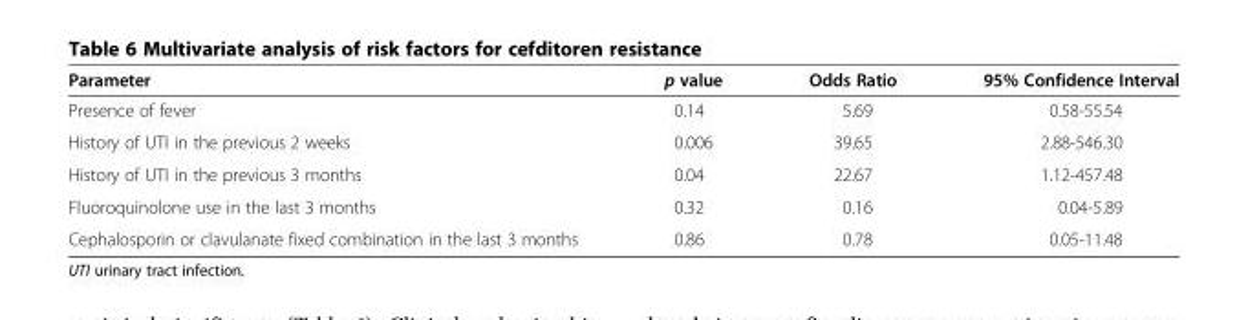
<table><thead><tr><td>Parameter</td><td>p value</td><td>Odds Ratio</td><td>95% Confidence Interval</td></tr></thead><tbody><tr><td>Presence of fever</td><td>0.14</td><td>5.69</td><td>0.58-55.54</td></tr><tr><td>History of UTI in the previous 2 weeks</td><td>0.006</td><td>39.65</td><td>2.88-546.30</td></tr><tr><td>History of UTI in the previous 3 months</td><td>0.04</td><td>22.67</td><td>1.12-457.48</td></tr><tr><td>Fluoroquinolone use in the last 3 months</td><td>0.32</td><td>0.16</td><td>0.04-5.89</td></tr><tr><td>Cephalosporin or clavulanate fixed combination in the last 3 months</td><td>0.86</td><td>0.78</td><td>0.05-11.48</td></tr></tbody></table>